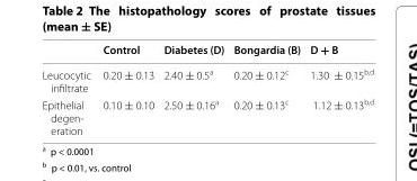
<table><thead><tr><td></td><td>Control</td><td>Diabetes (D)</td><td>Bongardia (B)</td><td>D + B</td></tr></thead><tbody><tr><td>Leucocytic infiltrate</td><td>0.20 ± 0.13</td><td>2.40 ± 0.5<sup>a</sup></td><td>0.20 ± 0.12<sup>c</sup></td><td>1.30 ± 0.15<sup>b,d</sup></td></tr><tr><td>Epithelial degen- eration</td><td>0.10 ± 0.10</td><td>2.50 ± 0.16<sup>a</sup></td><td>0.20 ± 0.13<sup>c</sup></td><td>1.12 ± 0.13<sup>b,d</sup></td></tr></tbody></table>